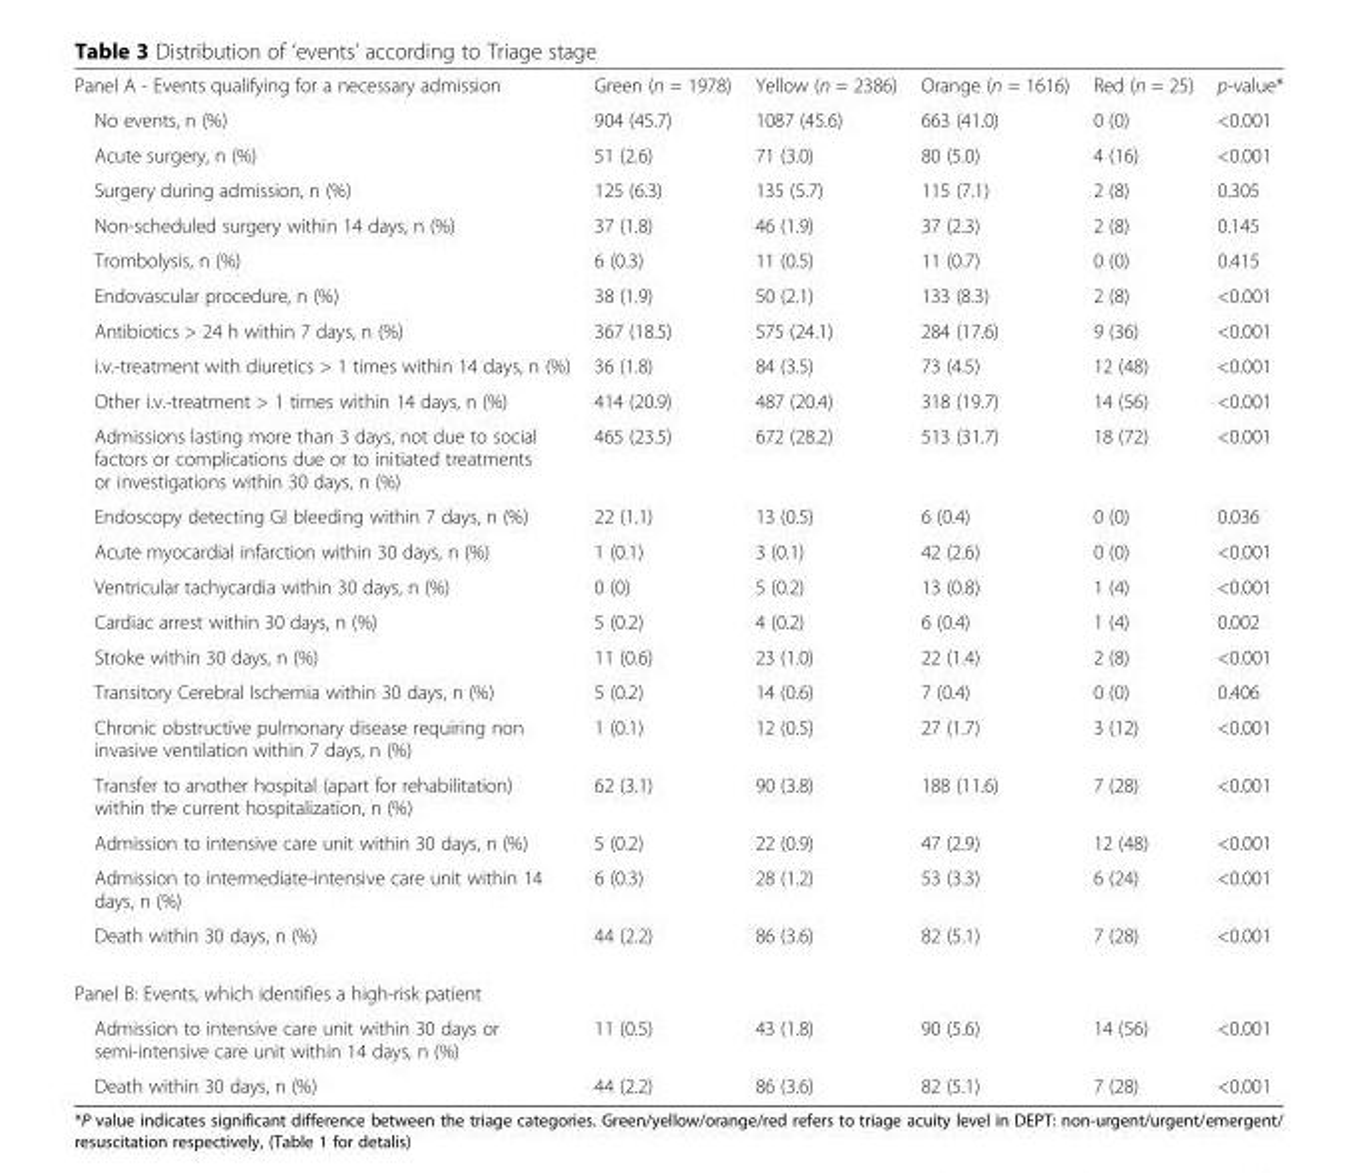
<table><tbody><tr><td>Panel A - Events qualifying for a necessary admission</td><td>Green (n = 1978)</td><td>Yellow (n = 2386)</td><td>Orange (n = 1616)</td><td>Red (n = 25)</td><td>p-value*</td></tr><tr><td>No events, n (%)</td><td>904 (45.7)</td><td>1087 (45.6)</td><td>663 (41.0)</td><td>0 (0)</td><td>&lt;0.001</td></tr><tr><td>Acute surgery, n (%)</td><td>51 (2.6)</td><td>71 (3.0)</td><td>80 (5.0)</td><td>4 (16)</td><td>&lt;0.001</td></tr><tr><td>Surgery during admission, n (%)</td><td>125 (6.3)</td><td>135 (5.7)</td><td>115 (7.1)</td><td>2 (8)</td><td>0.305</td></tr><tr><td>Non-scheduled surgery within 14 days, n (%)</td><td>37 (1.8)</td><td>46 (1.9)</td><td>37 (2.3)</td><td>2 (8)</td><td>0.145</td></tr><tr><td>Trombolysis, n (%)</td><td>6 (0.3)</td><td>11 (0.5)</td><td>11 (0.7)</td><td>0 (0)</td><td>0.415</td></tr><tr><td>Endovascular procedure, n (%)</td><td>38 (1.9)</td><td>50 (2.1)</td><td>133 (8.3)</td><td>2 (8)</td><td>&lt;0.001</td></tr><tr><td>Antibiotics &gt; 24 h within 7 days, n (%)</td><td>367 (18.5)</td><td>575 (24.1)</td><td>284 (17.6)</td><td>9 (36)</td><td>&lt;0.001</td></tr><tr><td>i.v.-treatment with diuretics &gt; 1 times within 14 days, n (%)</td><td>36 (1.8)</td><td>84 (3.5)</td><td>73 (4.5)</td><td>12 (48)</td><td>&lt;0.001</td></tr><tr><td>Other i.v.-treatment &gt; 1 times within 14 days, n (%)</td><td>414 (20.9)</td><td>487 (20.4)</td><td>318 (19.7)</td><td>14 (56)</td><td>&lt;0.001</td></tr><tr><td>Admissions lasting more than 3 days, not due to social factors or complications due or to initiated treatments or investigations within 30 days, n (%)</td><td>465 (23.5)</td><td>672 (28.2)</td><td>513 (31.7)</td><td>18 (72)</td><td>&lt;0.001</td></tr><tr><td>Endoscopy detecting GI bleeding within 7 days, n (%)</td><td>22 (1.1)</td><td>13 (0.5)</td><td>6 (0.4)</td><td>0 (0)</td><td>0.036</td></tr><tr><td>Acute myocardial infarction within 30 days, n (%)</td><td>1 (0.1)</td><td>3 (0.1)</td><td>42 (2.6)</td><td>0 (0)</td><td>&lt;0.001</td></tr><tr><td>Ventricular tachycardia within 30 days, n (%)</td><td>0 (0)</td><td>5 (0.2)</td><td>13 (0.8)</td><td>1 (4)</td><td>&lt;0.001</td></tr><tr><td>Cardiac arrest within 30 days, n (%)</td><td>5 (0.2)</td><td>4 (0.2)</td><td>6 (0.4)</td><td>1 (4)</td><td>0.002</td></tr><tr><td>Stroke within 30 days, n (%)</td><td>11 (0.6)</td><td>23 (1.0)</td><td>22 (1.4)</td><td>2 (8)</td><td>&lt;0.001</td></tr><tr><td>Transitory Cerebral Ischemia within 30 days, n (%)</td><td>5 (0.2)</td><td>14 (0.6)</td><td>7 (0.4)</td><td>0 (0)</td><td>0.406</td></tr><tr><td>Chronic obstructive pulmonary disease requiring non invasive ventilation within 7 days, n (%)</td><td>1 (0.1)</td><td>12 (0.5)</td><td>27 (1.7)</td><td>3 (12)</td><td>&lt;0.001</td></tr><tr><td>Transfer to another hospital (apart for rehabilitation) within the current hospitalization, n (%)</td><td>62 (3.1)</td><td>90 (3.8)</td><td>188 (11.6)</td><td>7 (28)</td><td>&lt;0.001</td></tr><tr><td>Admission to intensive care unit within 30 days, n (%)</td><td>5 (0.2)</td><td>22 (0.9)</td><td>47 (2.9)</td><td>12 (48)</td><td>&lt;0.001</td></tr><tr><td>Admission to intermediate-intensive care unit within 14 days, n (%)</td><td>6 (0.3)</td><td>28 (1.2)</td><td>53 (3.3)</td><td>6 (24)</td><td>&lt;0.001</td></tr><tr><td>Death within 30 days, n (%)</td><td>44 (2.2)</td><td>86 (3.6)</td><td>82 (5.1)</td><td>7 (28)</td><td>&lt;0.001</td></tr><tr><td colspan="6">Panel B: Events, which identifies a high-risk patient</td></tr><tr><td>Admission to intensive care unit within 30 days or semi-intensive care unit within 14 days, n (%)</td><td>11 (0.5)</td><td>43 (1.8)</td><td>90 (5.6)</td><td>14 (56)</td><td>&lt;0.001</td></tr><tr><td>Death within 30 days, n (%)</td><td>44 (2.2)</td><td>86 (3.6)</td><td>82 (5.1)</td><td>7 (28)</td><td>&lt;0.001</td></tr></tbody></table>